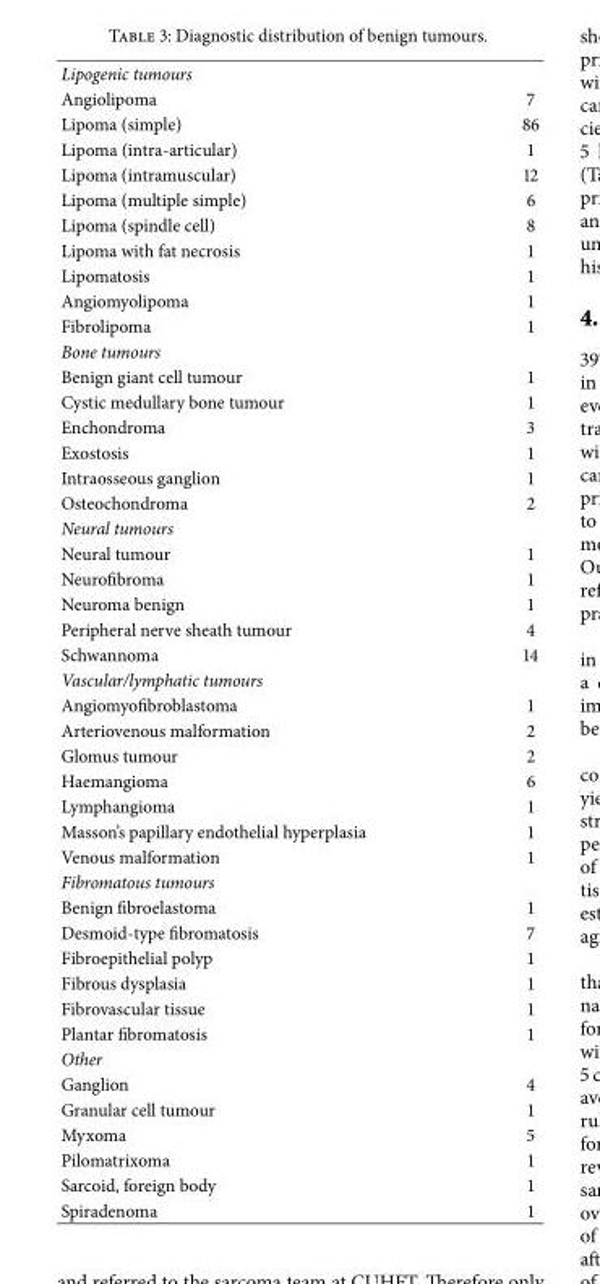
<table><tbody><tr><td colspan="2">Lipogenic tumours</td></tr><tr><td>Angiolipoma</td><td>7</td></tr><tr><td>Lipoma (simple)</td><td>86</td></tr><tr><td>Lipoma (intra-articular)</td><td>1</td></tr><tr><td>Lipoma (intramuscular)</td><td>12</td></tr><tr><td>Lipoma (multiple simple)</td><td>6</td></tr><tr><td>Lipoma (spindle cell)</td><td>8</td></tr><tr><td>Lipoma with fat necrosis</td><td>1</td></tr><tr><td>Lipomatosis</td><td>1</td></tr><tr><td>Angiomyolipoma</td><td>1</td></tr><tr><td>Fibrolipoma</td><td>1</td></tr><tr><td colspan="2">Bone tumours</td></tr><tr><td>Benign giant cell tumour</td><td>1</td></tr><tr><td>Cystic medullary bone tumour</td><td>1</td></tr><tr><td>Enchondroma</td><td>3</td></tr><tr><td>Exostosis</td><td>1</td></tr><tr><td>Intraosseous ganglion</td><td>1</td></tr><tr><td>Osteochondroma</td><td>2</td></tr><tr><td colspan="2">Neural tumours</td></tr><tr><td>Neural tumour</td><td>1</td></tr><tr><td>Neurofibroma</td><td>1</td></tr><tr><td>Neuroma benign</td><td>1</td></tr><tr><td>Peripheral nerve sheath tumour</td><td>4</td></tr><tr><td>Schwannoma</td><td>14</td></tr><tr><td colspan="2">Vascular/lymphatic tumours</td></tr><tr><td>Angiomyofibroblastoma</td><td>1</td></tr><tr><td>Arteriovenous malformation</td><td>2</td></tr><tr><td>Glomus tumour</td><td>2</td></tr><tr><td>Haemangioma</td><td>6</td></tr><tr><td>Lymphangioma</td><td>1</td></tr><tr><td>Masson’s papillary endothelial hyperplasia</td><td>1</td></tr><tr><td>Venous malformation</td><td>1</td></tr><tr><td colspan="2">Fibromatous tumours</td></tr><tr><td>Benign fibroelastoma</td><td>1</td></tr><tr><td>Desmoid-type fibromatosis</td><td>7</td></tr><tr><td>Fibroepithelial polyp</td><td>1</td></tr><tr><td>Fibrous dysplasia</td><td>1</td></tr><tr><td>Fibrovascular tissue</td><td>1</td></tr><tr><td>Plantar fibromatosis</td><td>1</td></tr><tr><td colspan="2">Other</td></tr><tr><td>Ganglion</td><td>4</td></tr><tr><td>Granular cell tumour</td><td>1</td></tr><tr><td>Myxoma</td><td>5</td></tr><tr><td>Pilomatrixoma</td><td>1</td></tr><tr><td>Sarcoid, foreign body</td><td>1</td></tr><tr><td>Spiradenoma</td><td>1</td></tr></tbody></table>